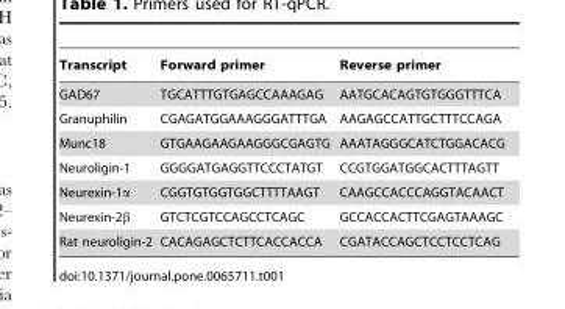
<table><thead><tr><td>Transcript</td><td>Forward primer</td><td>Reverse primer</td></tr></thead><tbody><tr><td>GAD67</td><td>TGCATTTGTGAGCCAAAGAG</td><td>AATGCACAGTGTGGGTTTCA</td></tr><tr><td>Granuphilin</td><td>CGAGATGGAAAGGGATTTGA</td><td>AAGAGCCATTGCTTTCCAGA</td></tr><tr><td>Munc18</td><td>GTGAAGAAGAAGGGCGAGTG</td><td>AAATAGGGCATCTGGACACG</td></tr><tr><td>Neuroligin-1</td><td>GGGGATGAGGTTCCCTATGT</td><td>CCGTGGATGGCACTTTAGTT</td></tr><tr><td>Neurexin-1α</td><td>CGGTGTGGTGGCTTTTAAGT</td><td>CAAGCCACCCAGGTACAACT</td></tr><tr><td>Neurexin-2β</td><td>GTCTCGTCCAGCCTCAGC</td><td>GCCACCACTTCGAGTAAAGC</td></tr><tr><td>Rat neuroligin-2</td><td>CACAGAGCTCTTCACCACCA</td><td>CGATACCAGCTCCTCCTCAG</td></tr></tbody></table>